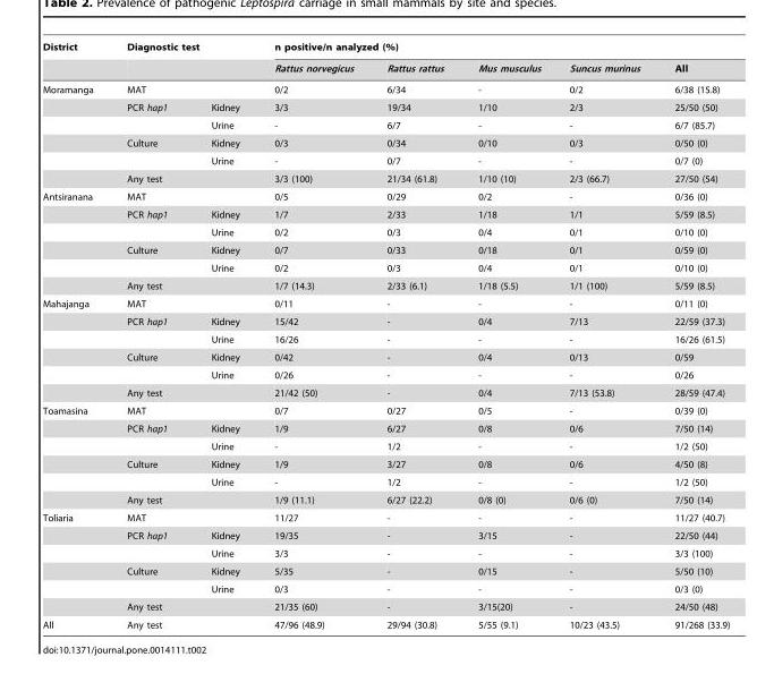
<table><thead><tr><td rowspan="2">District</td><td colspan="2">Diagnostic test</td><td colspan="5">n positive/n analyzed (%)</td></tr><tr><td></td><td></td><td>Rattus norvegicus</td><td>Rattus rattus</td><td>Mus musculus</td><td>Suncus murinus</td><td>All</td></tr></thead><tbody><tr><td rowspan="6">Moramanga</td><td colspan="2">MAT</td><td>0/2</td><td>6/34</td><td>-</td><td>0/2</td><td>6/38 (15.8)</td></tr><tr><td>PCR hap1</td><td>Kidney</td><td>3/3</td><td>19/34</td><td>1/10</td><td>2/3</td><td>25/50 (50)</td></tr><tr><td></td><td>Urine</td><td>-</td><td>6/7</td><td>-</td><td>-</td><td>6/7 (85.7)</td></tr><tr><td>Culture</td><td>Kidney</td><td>0/3</td><td>0/34</td><td>0/10</td><td>0/3</td><td>0/50 (0)</td></tr><tr><td></td><td>Urine</td><td>-</td><td>0/7</td><td>-</td><td>-</td><td>0/7 (0)</td></tr><tr><td colspan="2">Any test</td><td>3/3 (100)</td><td>21/34 (61.8)</td><td>1/10 (10)</td><td>2/3 (66.7)</td><td>27/50 (54)</td></tr><tr><td rowspan="6">Antsiranana</td><td colspan="2">MAT</td><td>0/5</td><td>0/29</td><td>0/2</td><td>-</td><td>0/36 (0)</td></tr><tr><td>PCR hap1</td><td>Kidney</td><td>1/7</td><td>2/33</td><td>1/18</td><td>1/1</td><td>5/59 (8.5)</td></tr><tr><td></td><td>Urine</td><td>0/2</td><td>0/3</td><td>0/4</td><td>0/1</td><td>0/10 (0)</td></tr><tr><td>Culture</td><td>Kidney</td><td>0/7</td><td>0/33</td><td>0/18</td><td>0/1</td><td>0/59 (0)</td></tr><tr><td></td><td>Urine</td><td>0/2</td><td>0/3</td><td>0/4</td><td>0/1</td><td>0/10 (0)</td></tr><tr><td colspan="2">Any test</td><td>1/7 (14.3)</td><td>2/33 (6.1)</td><td>1/18 (5.5)</td><td>1/1 (100)</td><td>5/59 (8.5)</td></tr><tr><td rowspan="6">Mahajanga</td><td colspan="2">MAT</td><td>0/11</td><td>-</td><td>-</td><td>-</td><td>0/11 (0)</td></tr><tr><td>PCR hap1</td><td>Kidney</td><td>15/42</td><td>-</td><td>0/4</td><td>7/13</td><td>22/59 (37.3)</td></tr><tr><td></td><td>Urine</td><td>16/26</td><td>-</td><td>-</td><td>-</td><td>16/26 (61.5)</td></tr><tr><td>Culture</td><td>Kidney</td><td>0/42</td><td>-</td><td>0/4</td><td>0/13</td><td>0/59</td></tr><tr><td></td><td>Urine</td><td>0/26</td><td>-</td><td>-</td><td>-</td><td>0/26</td></tr><tr><td colspan="2">Any test</td><td>21/42 (50)</td><td>-</td><td>0/4</td><td>7/13 (53.8)</td><td>28/59 (47.4)</td></tr><tr><td rowspan="6">Toamasina</td><td colspan="2">MAT</td><td>0/7</td><td>0/27</td><td>0/5</td><td>-</td><td>0/39 (0)</td></tr><tr><td>PCR hap1</td><td>Kidney</td><td>1/9</td><td>6/27</td><td>0/8</td><td>0/6</td><td>7/50 (14)</td></tr><tr><td></td><td>Urine</td><td>-</td><td>1/2</td><td>-</td><td>-</td><td>1/2 (50)</td></tr><tr><td>Culture</td><td>Kidney</td><td>1/9</td><td>3/27</td><td>0/8</td><td>0/6</td><td>4/50 (8)</td></tr><tr><td></td><td>Urine</td><td>-</td><td>1/2</td><td>-</td><td>-</td><td>1/2 (50)</td></tr><tr><td colspan="2">Any test</td><td>1/9 (11.1)</td><td>6/27 (22.2)</td><td>0/8 (0)</td><td>0/6 (0)</td><td>7/50 (14)</td></tr><tr><td rowspan="6">Toliaria</td><td colspan="2">MAT</td><td>11/27</td><td>-</td><td>-</td><td>-</td><td>11/27 (40.7)</td></tr><tr><td>PCR hap1</td><td>Kidney</td><td>19/35</td><td>-</td><td>3/15</td><td>-</td><td>22/50 (44)</td></tr><tr><td></td><td>Urine</td><td>3/3</td><td>-</td><td>-</td><td>-</td><td>3/3 (100)</td></tr><tr><td>Culture</td><td>Kidney</td><td>5/35</td><td>-</td><td>0/15</td><td>-</td><td>5/50 (10)</td></tr><tr><td></td><td>Urine</td><td>0/3</td><td>-</td><td>-</td><td>-</td><td>0/3 (0)</td></tr><tr><td colspan="2">Any test</td><td>21/35 (60)</td><td>-</td><td>3/15(20)</td><td>-</td><td>24/50 (48)</td></tr><tr><td>All</td><td colspan="2">Any test</td><td>47/96 (48.9)</td><td>29/94 (30.8)</td><td>5/55 (9.1)</td><td>10/23 (43.5)</td><td>91/268 (33.9)</td></tr></tbody></table>